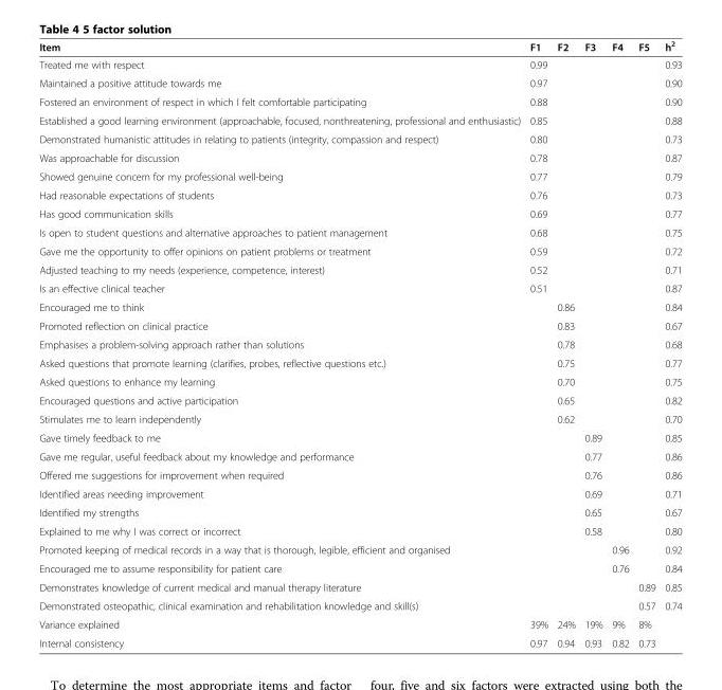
<table><thead><tr><td>Item</td><td>F1</td><td>F2</td><td>F3</td><td>F4</td><td>F5</td><td>h<sup>2</sup></td></tr></thead><tbody><tr><td>Treated me with respect</td><td>0.99</td><td></td><td></td><td></td><td></td><td>0.93</td></tr><tr><td>Maintained a positive attitude towards me</td><td>0.97</td><td></td><td></td><td></td><td></td><td>0.90</td></tr><tr><td>Fostered an environment of respect in which I felt comfortable participating</td><td>0.88</td><td></td><td></td><td></td><td></td><td>0.90</td></tr><tr><td>Established a good learning environment (approachable, focused, nonthreatening, professional and enthusiastic)</td><td>0.85</td><td></td><td></td><td></td><td></td><td>0.88</td></tr><tr><td>Demonstrated humanistic attitudes in relating to patients (integrity, compassion and respect)</td><td>0.80</td><td></td><td></td><td></td><td></td><td>0.73</td></tr><tr><td>Was approachable for discussion</td><td>0.78</td><td></td><td></td><td></td><td></td><td>0.87</td></tr><tr><td>Showed genuine concern for my professional well-being</td><td>0.77</td><td></td><td></td><td></td><td></td><td>0.79</td></tr><tr><td>Had reasonable expectations of students</td><td>0.76</td><td></td><td></td><td></td><td></td><td>0.73</td></tr><tr><td>Has good communication skills</td><td>0.69</td><td></td><td></td><td></td><td></td><td>0.77</td></tr><tr><td>Is open to student questions and alternative approaches to patient management</td><td>0.68</td><td></td><td></td><td></td><td></td><td>0.75</td></tr><tr><td>Gave me the opportunity to offer opinions on patient problems or treatment</td><td>0.59</td><td></td><td></td><td></td><td></td><td>0.72</td></tr><tr><td>Adjusted teaching to my needs (experience, competence, interest)</td><td>0.52</td><td></td><td></td><td></td><td></td><td>0.71</td></tr><tr><td>Is an effective clinical teacher</td><td>0.51</td><td></td><td></td><td></td><td></td><td>0.87</td></tr><tr><td>Encouraged me to think</td><td></td><td>0.86</td><td></td><td></td><td></td><td>0.84</td></tr><tr><td>Promoted reflection on clinical practice</td><td></td><td>0.83</td><td></td><td></td><td></td><td>0.67</td></tr><tr><td>Emphasises a problem-solving approach rather than solutions</td><td></td><td>0.78</td><td></td><td></td><td></td><td>0.68</td></tr><tr><td>Asked questions that promote learning (clarifies, probes, reflective questions etc.)</td><td></td><td>0.75</td><td></td><td></td><td></td><td>0.77</td></tr><tr><td>Asked questions to enhance my learning</td><td></td><td>0.70</td><td></td><td></td><td></td><td>0.75</td></tr><tr><td>Encouraged questions and active participation</td><td></td><td>0.65</td><td></td><td></td><td></td><td>0.82</td></tr><tr><td>Stimulates me to learn independently</td><td></td><td>0.62</td><td></td><td></td><td></td><td>0.70</td></tr><tr><td>Gave timely feedback to me</td><td></td><td></td><td>0.89</td><td></td><td></td><td>0.85</td></tr><tr><td>Gave me regular, useful feedback about my knowledge and performance</td><td></td><td></td><td>0.77</td><td></td><td></td><td>0.86</td></tr><tr><td>Offered me suggestions for improvement when required</td><td></td><td></td><td>0.76</td><td></td><td></td><td>0.86</td></tr><tr><td>Identified areas needing improvement</td><td></td><td></td><td>0.69</td><td></td><td></td><td>0.71</td></tr><tr><td>Identified my strengths</td><td></td><td></td><td>0.65</td><td></td><td></td><td>0.67</td></tr><tr><td>Explained to me why I was correct or incorrect</td><td></td><td></td><td>0.58</td><td></td><td></td><td>0.80</td></tr><tr><td>Promoted keeping of medical records in a way that is thorough, legible, efficient and organised</td><td></td><td></td><td></td><td>0.96</td><td></td><td>0.92</td></tr><tr><td>Encouraged me to assume responsibility for patient care</td><td></td><td></td><td></td><td>0.76</td><td></td><td>0.84</td></tr><tr><td>Demonstrates knowledge of current medical and manual therapy literature</td><td></td><td></td><td></td><td></td><td>0.89</td><td>0.85</td></tr><tr><td>Demonstrated osteopathic, clinical examination and rehabilitation knowledge and skill(s)</td><td></td><td></td><td></td><td></td><td>0.57</td><td>0.74</td></tr><tr><td>Variance explained</td><td>39%</td><td>24%</td><td>19%</td><td>9%</td><td>8%</td><td></td></tr><tr><td>Internal consistency</td><td>0.97</td><td>0.94</td><td>0.93</td><td>0.82</td><td>0.73</td><td></td></tr></tbody></table>